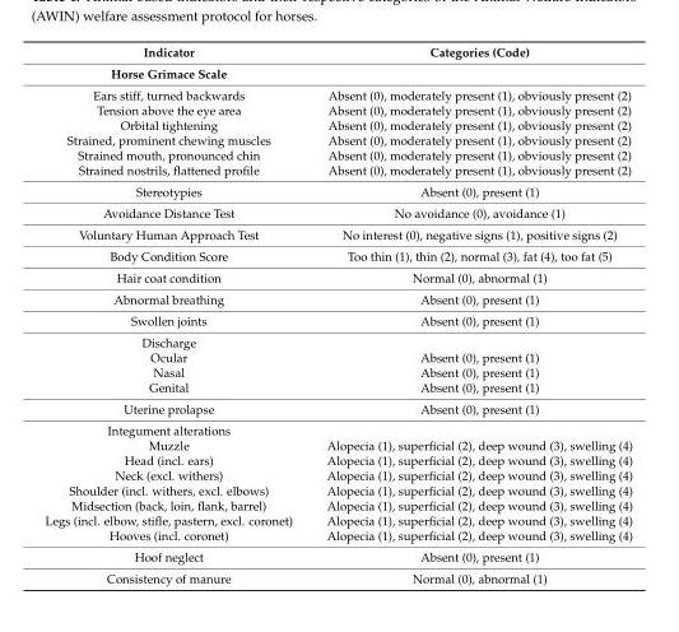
<table><thead><tr><td rowspan="2">Indicator Horse Grimace Scale</td><td rowspan="2">Categories (Code)</td></tr><tr></tr></thead><tbody><tr><td>Ears stiff, turned backwards</td><td>Absent (0), moderately present (1), obviously present (2)</td></tr><tr><td>Tension above the eye area</td><td>Absent (0), moderately present (1), obviously present (2)</td></tr><tr><td>Orbital tightening</td><td>Absent (0), moderately present (1), obviously present (2)</td></tr><tr><td>Strained, prominent chewing muscles</td><td>Absent (0), moderately present (1), obviously present (2)</td></tr><tr><td>Strained mouth, pronounced chin</td><td>Absent (0), moderately present (1), obviously present (2)</td></tr><tr><td>Strained nostrils, flattened profile</td><td>Absent (0), moderately present (1), obviously present (2)</td></tr><tr><td>Stereotypies</td><td>Absent (0), present (1)</td></tr><tr><td>Avoidance Distance Test</td><td>No avoidance (0), avoidance (1)</td></tr><tr><td>Voluntary Human Approach Test</td><td>No interest (0), negative signs (1), positive signs (2)</td></tr><tr><td>Body Condition Score</td><td>Too thin (1), thin (2), normal (3), fat (4), too fat (5)</td></tr><tr><td>Hair coat condition</td><td>Normal (0), abnormal (1)</td></tr><tr><td>Abnormal breathing</td><td>Absent (0), present (1)</td></tr><tr><td>Swollen joints</td><td>Absent (0), present (1)</td></tr><tr><td colspan="2">Discharge</td></tr><tr><td>Ocular</td><td>Absent (0), present (1)</td></tr><tr><td>Nasal</td><td>Absent (0), present (1)</td></tr><tr><td>Genital</td><td>Absent (0), present (1)</td></tr><tr><td>Uterine prolapse</td><td>Absent (0), present (1)</td></tr><tr><td colspan="2">Integument alterations</td></tr><tr><td>Muzzle</td><td>Alopecia (1), superficial (2), deep wound (3), swelling (4)</td></tr><tr><td>Head (incl. ears)</td><td>Alopecia (1), superficial (2), deep wound (3), swelling (4)</td></tr><tr><td>Neck (excl. withers)</td><td>Alopecia (1), superficial (2), deep wound (3), swelling (4)</td></tr><tr><td>Shoulder (incl. withers, excl. elbows)</td><td>Alopecia (1), superficial (2), deep wound (3), swelling (4)</td></tr><tr><td>Midsection (back, loin, flank, barrel)</td><td>Alopecia (1), superficial (2), deep wound (3), swelling (4)</td></tr><tr><td>Legs (incl. elbow, stifle, pastern, excl. coronet)</td><td>Alopecia (1), superficial (2), deep wound (3), swelling (4)</td></tr><tr><td>Hooves (incl. coronet)</td><td>Alopecia (1), superficial (2), deep wound (3), swelling (4)</td></tr><tr><td>Hoof neglect</td><td>Absent (0), present (1)</td></tr><tr><td>Consistency of manure</td><td>Normal (0), abnormal (1)</td></tr></tbody></table>